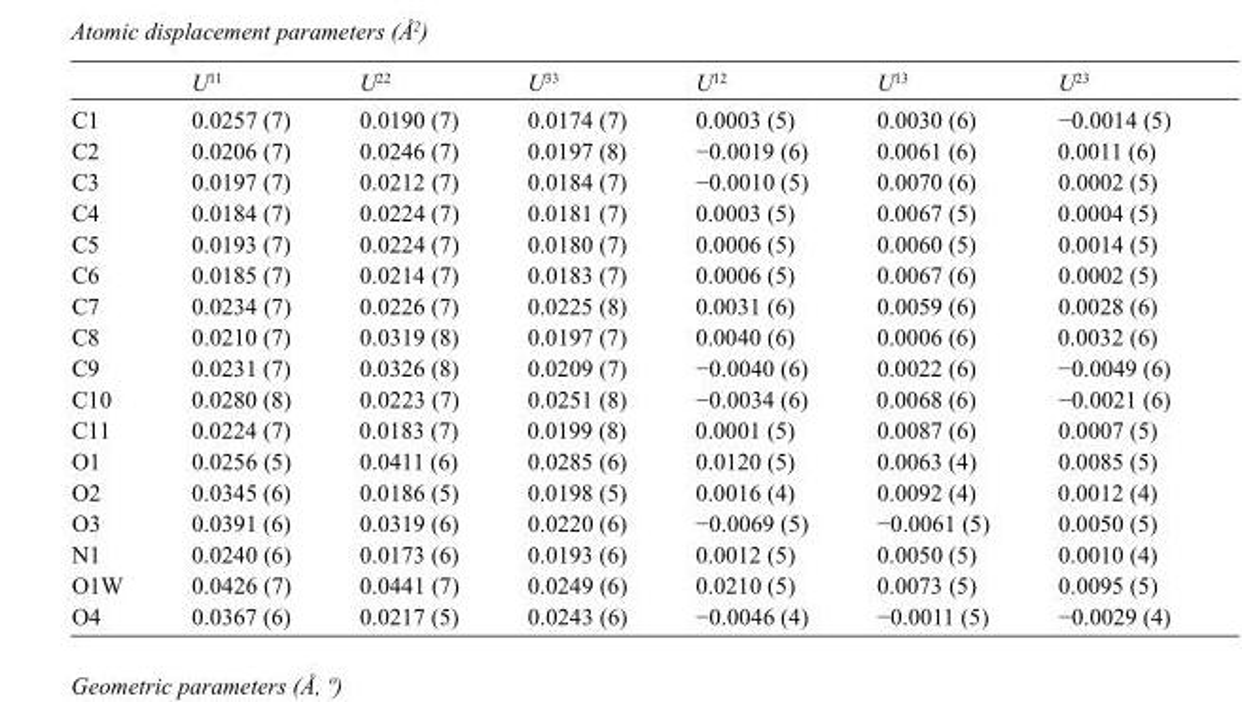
<table><thead><tr><td></td><td>U<sup>11</sup></td><td>U<sup>22</sup></td><td>U<sup>33</sup></td><td>U<sup>12</sup></td><td>U<sup>13</sup></td><td>U<sup>23</sup></td></tr></thead><tbody><tr><td>C1</td><td>0.0257 (7)</td><td>0.0190 (7)</td><td>0.0174 (7)</td><td>0.0003 (5)</td><td>0.0030 (6)</td><td>−0.0014 (5)</td></tr><tr><td>C2</td><td>0.0206 (7)</td><td>0.0246 (7)</td><td>0.0197 (8)</td><td>−0.0019 (6)</td><td>0.0061 (6)</td><td>0.0011 (6)</td></tr><tr><td>C3</td><td>0.0197 (7)</td><td>0.0212 (7)</td><td>0.0184 (7)</td><td>−0.0010 (5)</td><td>0.0070 (6)</td><td>0.0002 (5)</td></tr><tr><td>C4</td><td>0.0184 (7)</td><td>0.0224 (7)</td><td>0.0181 (7)</td><td>0.0003 (5)</td><td>0.0067 (5)</td><td>0.0004 (5)</td></tr><tr><td>C5</td><td>0.0193 (7)</td><td>0.0224 (7)</td><td>0.0180 (7)</td><td>0.0006 (5)</td><td>0.0060 (5)</td><td>0.0014 (5)</td></tr><tr><td>C6</td><td>0.0185 (7)</td><td>0.0214 (7)</td><td>0.0183 (7)</td><td>0.0006 (5)</td><td>0.0067 (6)</td><td>0.0002 (5)</td></tr><tr><td>C7</td><td>0.0234 (7)</td><td>0.0226 (7)</td><td>0.0225 (8)</td><td>0.0031 (6)</td><td>0.0059 (6)</td><td>0.0028 (6)</td></tr><tr><td>C8</td><td>0.0210 (7)</td><td>0.0319 (8)</td><td>0.0197 (7)</td><td>0.0040 (6)</td><td>0.0006 (6)</td><td>0.0032 (6)</td></tr><tr><td>C9</td><td>0.0231 (7)</td><td>0.0326 (8)</td><td>0.0209 (7)</td><td>−0.0040 (6)</td><td>0.0022 (6)</td><td>−0.0049 (6)</td></tr><tr><td>C10</td><td>0.0280 (8)</td><td>0.0223 (7)</td><td>0.0251 (8)</td><td>−0.0034 (6)</td><td>0.0068 (6)</td><td>−0.0021 (6)</td></tr><tr><td>C11</td><td>0.0224 (7)</td><td>0.0183 (7)</td><td>0.0199 (8)</td><td>0.0001 (5)</td><td>0.0087 (6)</td><td>0.0007 (5)</td></tr><tr><td>O1</td><td>0.0256 (5)</td><td>0.0411 (6)</td><td>0.0285 (6)</td><td>0.0120 (5)</td><td>0.0063 (4)</td><td>0.0085 (5)</td></tr><tr><td>O2</td><td>0.0345 (6)</td><td>0.0186 (5)</td><td>0.0198 (5)</td><td>0.0016 (4)</td><td>0.0092 (4)</td><td>0.0012 (4)</td></tr><tr><td>O3</td><td>0.0391 (6)</td><td>0.0319 (6)</td><td>0.0220 (6)</td><td>−0.0069 (5)</td><td>−0.0061 (5)</td><td>0.0050 (5)</td></tr><tr><td>N1</td><td>0.0240 (6)</td><td>0.0173 (6)</td><td>0.0193 (6)</td><td>0.0012 (5)</td><td>0.0050 (5)</td><td>0.0010 (4)</td></tr><tr><td>O1W</td><td>0.0426 (7)</td><td>0.0441 (7)</td><td>0.0249 (6)</td><td>0.0210 (5)</td><td>0.0073 (5)</td><td>0.0095 (5)</td></tr><tr><td>O4</td><td>0.0367 (6)</td><td>0.0217 (5)</td><td>0.0243 (6)</td><td>−0.0046 (4)</td><td>−0.0011 (5)</td><td>−0.0029 (4)</td></tr></tbody></table>